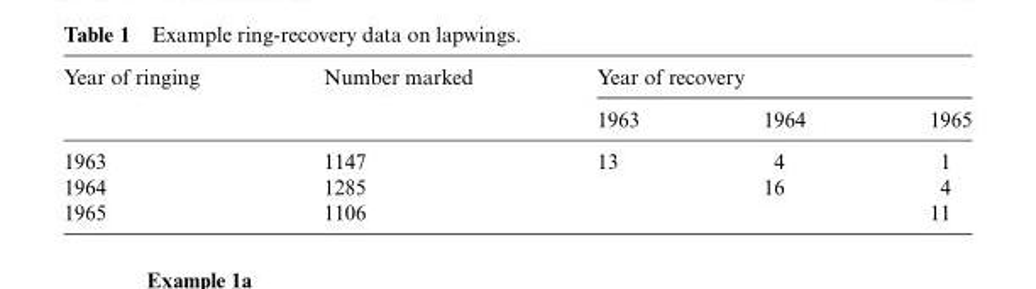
<table><thead><tr><td rowspan="2">Year of ringing</td><td rowspan="2">Number marked</td><td colspan="3">Year of recovery</td></tr><tr><td>1963</td><td>1964</td><td>1965</td></tr></thead><tbody><tr><td>1963</td><td>1147</td><td>13</td><td>4</td><td>1</td></tr><tr><td>1964</td><td>1285</td><td></td><td>16</td><td>4</td></tr><tr><td>1965</td><td>1106</td><td></td><td></td><td>11</td></tr></tbody></table>